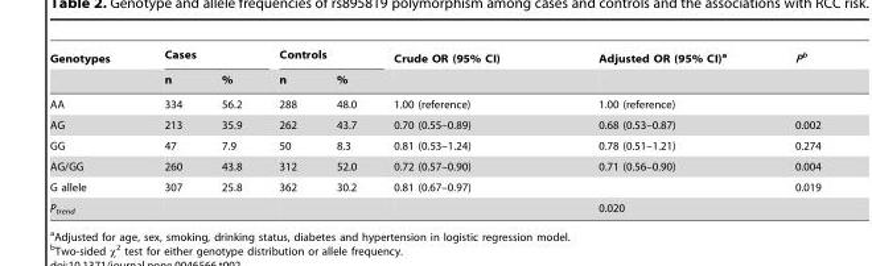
<table><thead><tr><td rowspan="2">Genotypes</td><td colspan="2">Cases</td><td colspan="2">Controls</td><td rowspan="2">Crude OR (95% CI)</td><td rowspan="2">Adjusted OR (95% CI)<sup>a</sup></td><td rowspan="2">Pb</td></tr><tr><td>n</td><td>%</td><td>n</td><td>%</td></tr></thead><tbody><tr><td>AA</td><td>334</td><td>56.2</td><td>288</td><td>48.0</td><td>1.00 (reference)</td><td>1.00 (reference)</td><td></td></tr><tr><td>AG</td><td>213</td><td>35.9</td><td>262</td><td>43.7</td><td>0.70 (0.55–0.89)</td><td>0.68 (0.53–0.87)</td><td>0.002</td></tr><tr><td>GG</td><td>47</td><td>7.9</td><td>50</td><td>8.3</td><td>0.81 (0.53–1.24)</td><td>0.78 (0.51–1.21)</td><td>0.274</td></tr><tr><td>AG/GG</td><td>260</td><td>43.8</td><td>312</td><td>52.0</td><td>0.72 (0.57–0.90)</td><td>0.71 (0.56–0.90)</td><td>0.004</td></tr><tr><td>G allele</td><td>307</td><td>25.8</td><td>362</td><td>30.2</td><td>0.81 (0.67–0.97)</td><td></td><td>0.019</td></tr><tr><td>P<sub>trend</sub></td><td></td><td></td><td></td><td></td><td></td><td>0.020</td><td></td></tr></tbody></table>